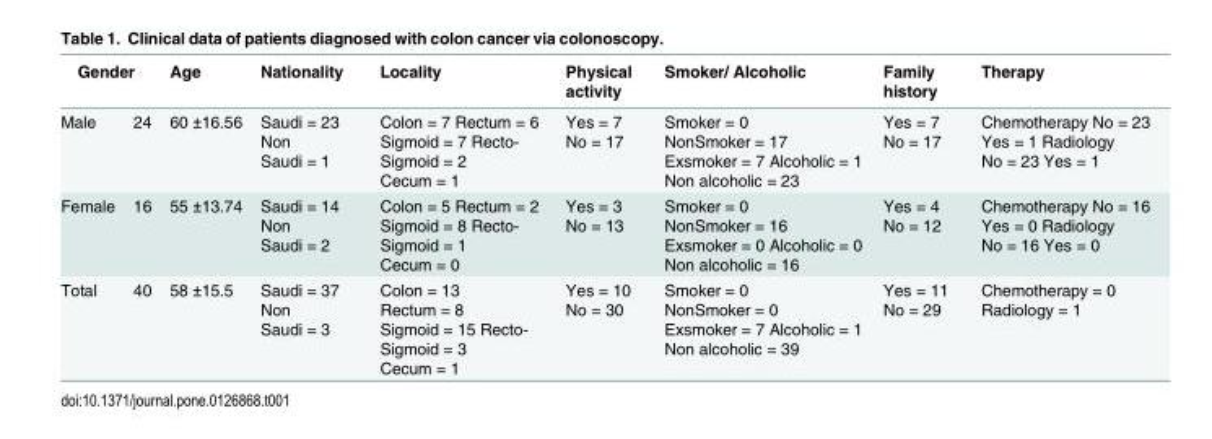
<table><thead><tr><td colspan="2">Gender</td><td rowspan="2">Age 60 ±16.56</td><td rowspan="2">Nationality Saudi = 23 Non Saudi = 1</td><td rowspan="2">Locality Colon = 7 Rectum = 6 Sigmoid = 7 Recto- Sigmoid = 2 Cecum = 1</td><td rowspan="2">Physical activity Yes = 7 No = 17</td><td rowspan="2">Smoker/ Alcoholic Smoker = 0 NonSmoker = 17 Exsmoker = 7 Alcoholic = 1 Non alcoholic = 23</td><td rowspan="2">Family history Yes = 7 No = 17</td><td rowspan="2">Therapy Chemotherapy No = 23 Yes = 1 Radiology No = 23 Yes = 1</td></tr><tr><td>Male</td><td>24</td></tr></thead><tbody><tr><td>Female</td><td>16</td><td>55 ±13.74</td><td>Saudi = 14 Non Saudi = 2</td><td>Colon = 5 Rectum = 2 Sigmoid = 8 Recto- Sigmoid = 1 Cecum = 0</td><td>Yes = 3 No = 13</td><td>Smoker = 0 NonSmoker = 16 Exsmoker = 0 Alcoholic = 0 Non alcoholic = 16</td><td>Yes = 4 No = 12</td><td>Chemotherapy No = 16 Yes = 0 Radiology No = 16 Yes = 0</td></tr><tr><td>Total</td><td>40</td><td>58 ±15.5</td><td>Saudi = 37 Non Saudi = 3</td><td>Colon = 13 Rectum = 8 Sigmoid = 15 Recto- Sigmoid = 3 Cecum = 1</td><td>Yes = 10 No = 30</td><td>Smoker = 0 NonSmoker = 0 Exsmoker = 7 Alcoholic = 1 Non alcoholic = 39</td><td>Yes = 11 No = 29</td><td>Chemotherapy = 0 Radiology = 1</td></tr></tbody></table>